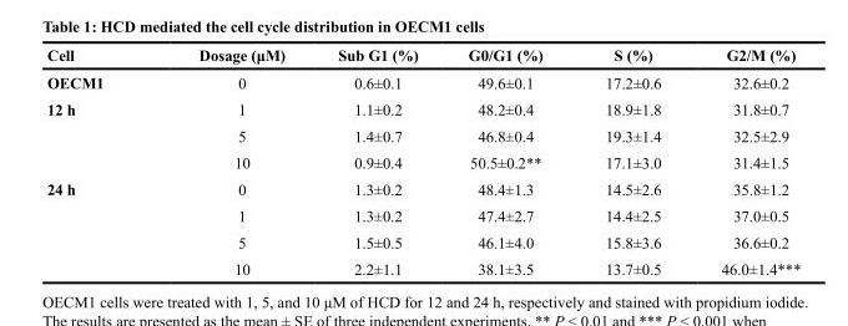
<table><thead><tr><td>Cell</td><td>Dosage (μM)</td><td>Sub G1 (%)</td><td>G0/G1 (%)</td><td>S (%)</td><td>G2/M (%)</td></tr></thead><tbody><tr><td>OECM1</td><td>0</td><td>0.6±0.1</td><td>49.6±0.1</td><td>17.2±0.6</td><td>32.6±0.2</td></tr><tr><td rowspan="3">12 h</td><td>1</td><td>1.1±0.2</td><td>48.2±0.4</td><td>18.9±1.8</td><td>31.8±0.7</td></tr><tr><td>5</td><td>1.4±0.7</td><td>46.8±0.4</td><td>19.3±1.4</td><td>32.5±2.9</td></tr><tr><td>10</td><td>0.9±0.4</td><td>50.5±0.2**</td><td>17.1±3.0</td><td>31.4±1.5</td></tr><tr><td rowspan="4">24 h</td><td>0</td><td>1.3±0.2</td><td>48.4±1.3</td><td>14.5±2.6</td><td>35.8±1.2</td></tr><tr><td>1</td><td>1.3±0.2</td><td>47.4±2.7</td><td>14.4±2.5</td><td>37.0±0.5</td></tr><tr><td>5</td><td>1.5±0.5</td><td>46.1±4.0</td><td>15.8±3.6</td><td>36.6±0.2</td></tr><tr><td>10</td><td>2.2±1.1</td><td>38.1±3.5</td><td>13.7±0.5</td><td>46.0±1.4***</td></tr></tbody></table>